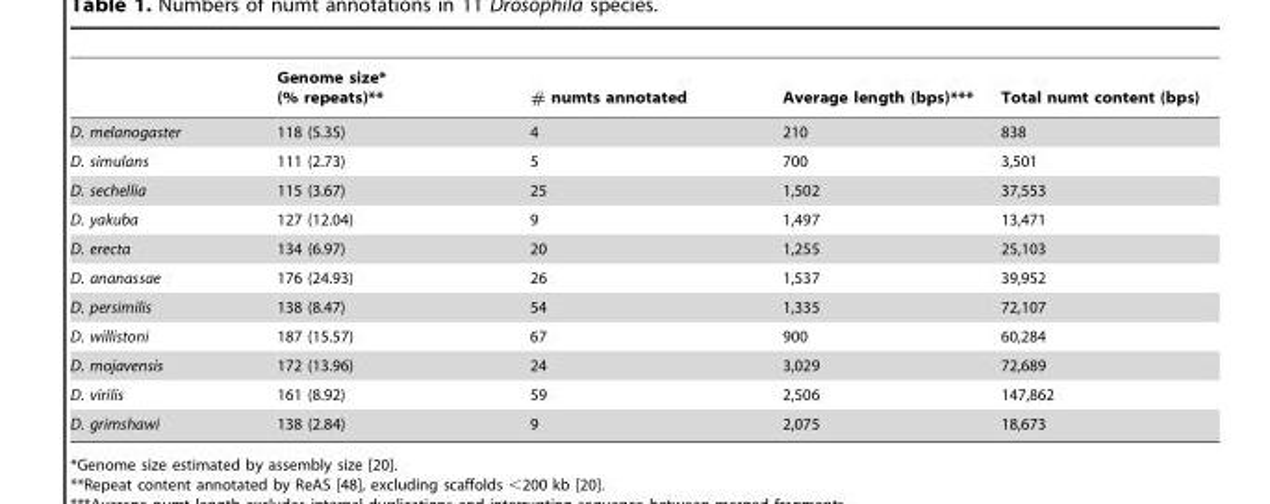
<table><thead><tr><td></td><td>Genome size* (% repeats)**</td><td># numts annotated</td><td>Average length (bps)***</td><td>Total numt content (bps)</td></tr></thead><tbody><tr><td>D. melanogaster</td><td>118 (5.35)</td><td>4</td><td>210</td><td>838</td></tr><tr><td>D. simulans</td><td>111 (2.73)</td><td>5</td><td>700</td><td>3,501</td></tr><tr><td>D. sechellia</td><td>115 (3.67)</td><td>25</td><td>1,502</td><td>37,553</td></tr><tr><td>D. yakuba</td><td>127 (12.04)</td><td>9</td><td>1,497</td><td>13,471</td></tr><tr><td>D. erecta</td><td>134 (6.97)</td><td>20</td><td>1,255</td><td>25,103</td></tr><tr><td>D. ananassae</td><td>176 (24.93)</td><td>26</td><td>1,537</td><td>39,952</td></tr><tr><td>D. persimilis</td><td>138 (8.47)</td><td>54</td><td>1,335</td><td>72,107</td></tr><tr><td>D. willistoni</td><td>187 (15.57)</td><td>67</td><td>900</td><td>60,284</td></tr><tr><td>D. mojavensis</td><td>172 (13.96)</td><td>24</td><td>3,029</td><td>72,689</td></tr><tr><td>D. virilis</td><td>161 (8.92)</td><td>59</td><td>2,506</td><td>147,862</td></tr><tr><td>D. grimshawi</td><td>138 (2.84)</td><td>9</td><td>2,075</td><td>18,673</td></tr></tbody></table>